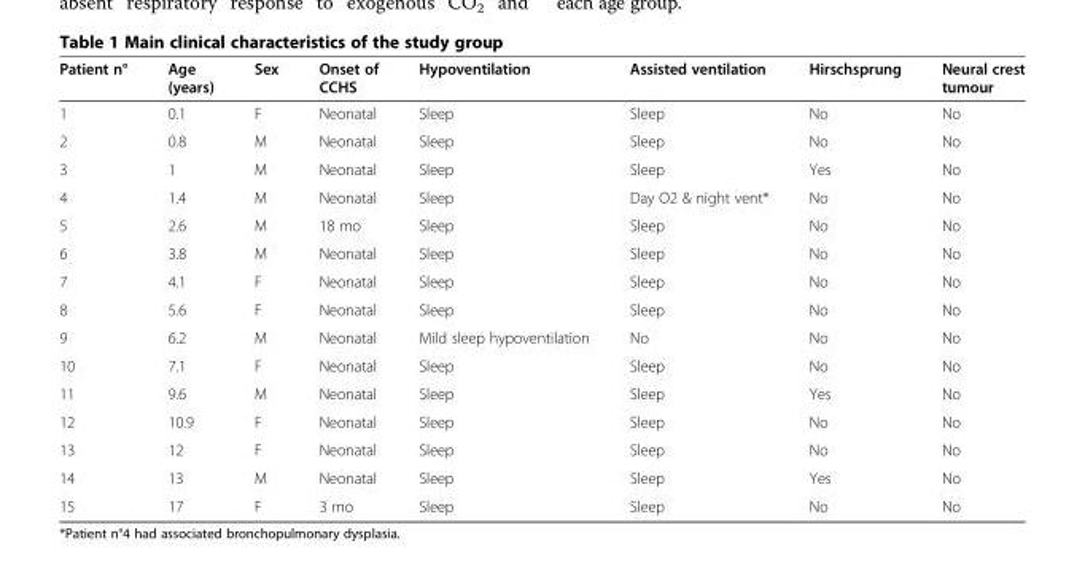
<table><thead><tr><td>Patient n°</td><td>Age (years)</td><td>Sex</td><td>Onset of CCHS</td><td>Hypoventilation</td><td>Assisted ventilation</td><td>Hirschsprung</td><td>Neural crest tumour</td></tr></thead><tbody><tr><td>1</td><td>0.1</td><td>F</td><td>Neonatal</td><td>Sleep</td><td>Sleep</td><td>No</td><td>No</td></tr><tr><td>2</td><td>0.8</td><td>M</td><td>Neonatal</td><td>Sleep</td><td>Sleep</td><td>No</td><td>No</td></tr><tr><td>3</td><td>1</td><td>M</td><td>Neonatal</td><td>Sleep</td><td>Sleep</td><td>Yes</td><td>No</td></tr><tr><td>4</td><td>1.4</td><td>M</td><td>Neonatal</td><td>Sleep</td><td>Day O2 &amp; night vent*</td><td>No</td><td>No</td></tr><tr><td>5</td><td>2.6</td><td>M</td><td>18 mo</td><td>Sleep</td><td>Sleep</td><td>No</td><td>No</td></tr><tr><td>6</td><td>3.8</td><td>M</td><td>Neonatal</td><td>Sleep</td><td>Sleep</td><td>No</td><td>No</td></tr><tr><td>7</td><td>4.1</td><td>F</td><td>Neonatal</td><td>Sleep</td><td>Sleep</td><td>No</td><td>No</td></tr><tr><td>8</td><td>5.6</td><td>F</td><td>Neonatal</td><td>Sleep</td><td>Sleep</td><td>No</td><td>No</td></tr><tr><td>9</td><td>6.2</td><td>M</td><td>Neonatal</td><td>Mild sleep hypoventilation</td><td>No</td><td>No</td><td>No</td></tr><tr><td>10</td><td>7.1</td><td>F</td><td>Neonatal</td><td>Sleep</td><td>Sleep</td><td>No</td><td>No</td></tr><tr><td>11</td><td>9.6</td><td>M</td><td>Neonatal</td><td>Sleep</td><td>Sleep</td><td>Yes</td><td>No</td></tr><tr><td>12</td><td>10.9</td><td>F</td><td>Neonatal</td><td>Sleep</td><td>Sleep</td><td>No</td><td>No</td></tr><tr><td>13</td><td>12</td><td>F</td><td>Neonatal</td><td>Sleep</td><td>Sleep</td><td>No</td><td>No</td></tr><tr><td>14</td><td>13</td><td>M</td><td>Neonatal</td><td>Sleep</td><td>Sleep</td><td>Yes</td><td>No</td></tr><tr><td>15</td><td>17</td><td>F</td><td>3 mo</td><td>Sleep</td><td>Sleep</td><td>No</td><td>No</td></tr></tbody></table>